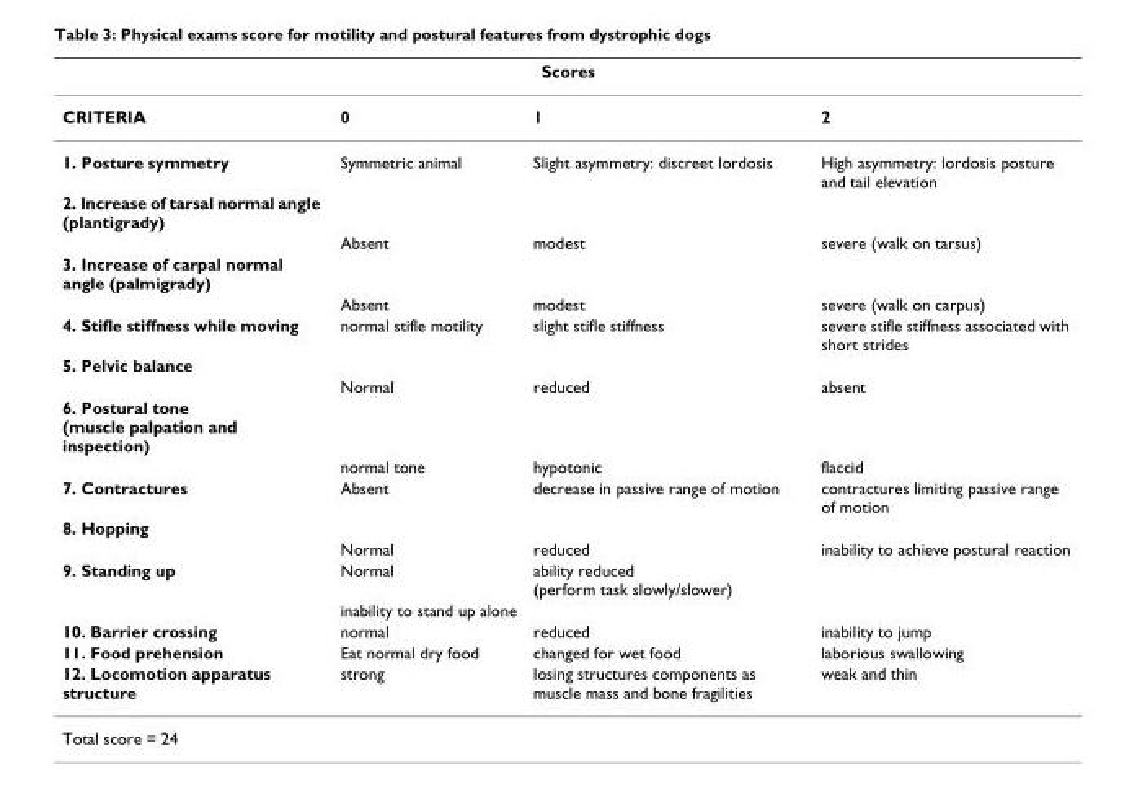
<table><thead><tr><td colspan="4">Scores</td></tr><tr><td>CRITERIA</td><td>0</td><td>1</td><td>2</td></tr></thead><tbody><tr><td>1. Posture symmetry</td><td>Symmetric animal</td><td>Slight asymmetry: discreet lordosis</td><td>High asymmetry: lordosis posture and tail elevation</td></tr><tr><td colspan="4">2. Increase of tarsal normal angle (plantigrady)</td></tr><tr><td></td><td>Absent</td><td>modest</td><td>severe (walk on tarsus)</td></tr><tr><td colspan="4">3. Increase of carpal normal angle (palmigrady)</td></tr><tr><td></td><td>Absent</td><td>modest</td><td>severe (walk on carpus)</td></tr><tr><td>4. Stifle stiffness while moving</td><td>normal stifle motility</td><td>slight stifle stiffness</td><td>severe stifle stiffness associated with short strides</td></tr><tr><td colspan="4">5. Pelvic balance</td></tr><tr><td></td><td>Normal</td><td>reduced</td><td>absent</td></tr><tr><td colspan="4">6. Postural tone (muscle palpation and inspection)</td></tr><tr><td></td><td>normal tone</td><td>hypotonic</td><td>flaccid</td></tr><tr><td>7. Contractures</td><td>Absent</td><td>decrease in passive range of motion</td><td>contractures limiting passive range of motion</td></tr><tr><td colspan="4">8. Hopping</td></tr><tr><td></td><td>Normal</td><td>reduced</td><td>inability to achieve postural reaction</td></tr><tr><td rowspan="2">9. Standing up</td><td>Normal</td><td>ability reduced (perform task slowly/slower)</td><td></td></tr><tr><td>inability to stand up alone</td><td></td><td></td></tr><tr><td>10. Barrier crossing</td><td>normal</td><td>reduced</td><td>inability to jump</td></tr><tr><td>11. Food prehension</td><td>Eat normal dry food</td><td>changed for wet food</td><td>laborious swallowing</td></tr><tr><td>12. Locomotion apparatus structure</td><td>strong</td><td>losing structures components as muscle mass and bone fragilities</td><td>weak and thin</td></tr><tr><td>Total score = 24</td><td></td><td></td><td></td></tr></tbody></table>